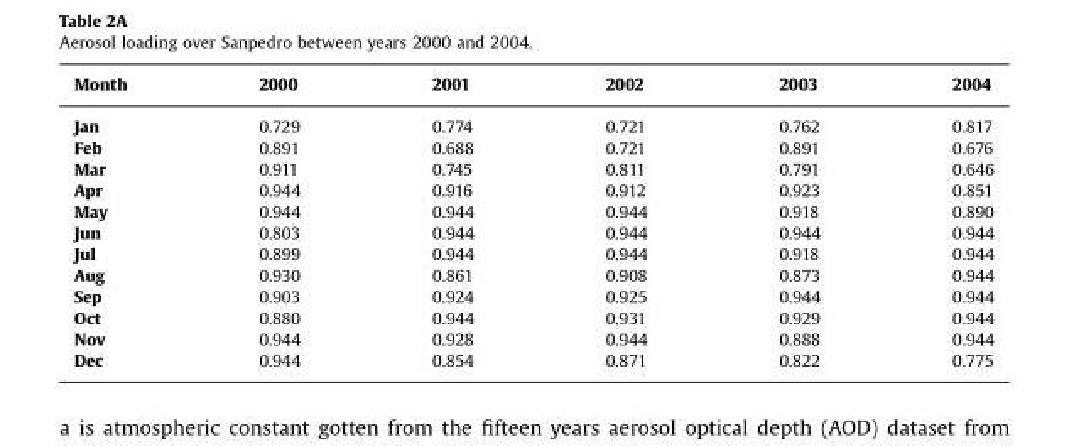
<table><thead><tr><td>Month</td><td>2000</td><td>2001</td><td>2002</td><td>2003</td><td>2004</td></tr></thead><tbody><tr><td>Jan</td><td>0.729</td><td>0.774</td><td>0.721</td><td>0.762</td><td>0.817</td></tr><tr><td>Feb</td><td>0.891</td><td>0.688</td><td>0.721</td><td>0.891</td><td>0.676</td></tr><tr><td>Mar</td><td>0.911</td><td>0.745</td><td>0.811</td><td>0.791</td><td>0.646</td></tr><tr><td>Apr</td><td>0.944</td><td>0.916</td><td>0.912</td><td>0.923</td><td>0.851</td></tr><tr><td>May</td><td>0.944</td><td>0.944</td><td>0.944</td><td>0.918</td><td>0.890</td></tr><tr><td>Jun</td><td>0.803</td><td>0.944</td><td>0.944</td><td>0.944</td><td>0.944</td></tr><tr><td>Jul</td><td>0.899</td><td>0.944</td><td>0.944</td><td>0.918</td><td>0.944</td></tr><tr><td>Aug</td><td>0.930</td><td>0.861</td><td>0.908</td><td>0.873</td><td>0.944</td></tr><tr><td>Sep</td><td>0.903</td><td>0.924</td><td>0.925</td><td>0.944</td><td>0.944</td></tr><tr><td>Oct</td><td>0.880</td><td>0.944</td><td>0.931</td><td>0.929</td><td>0.944</td></tr><tr><td>Nov</td><td>0.944</td><td>0.928</td><td>0.944</td><td>0.888</td><td>0.944</td></tr><tr><td>Dec</td><td>0.944</td><td>0.854</td><td>0.871</td><td>0.822</td><td>0.775</td></tr></tbody></table>